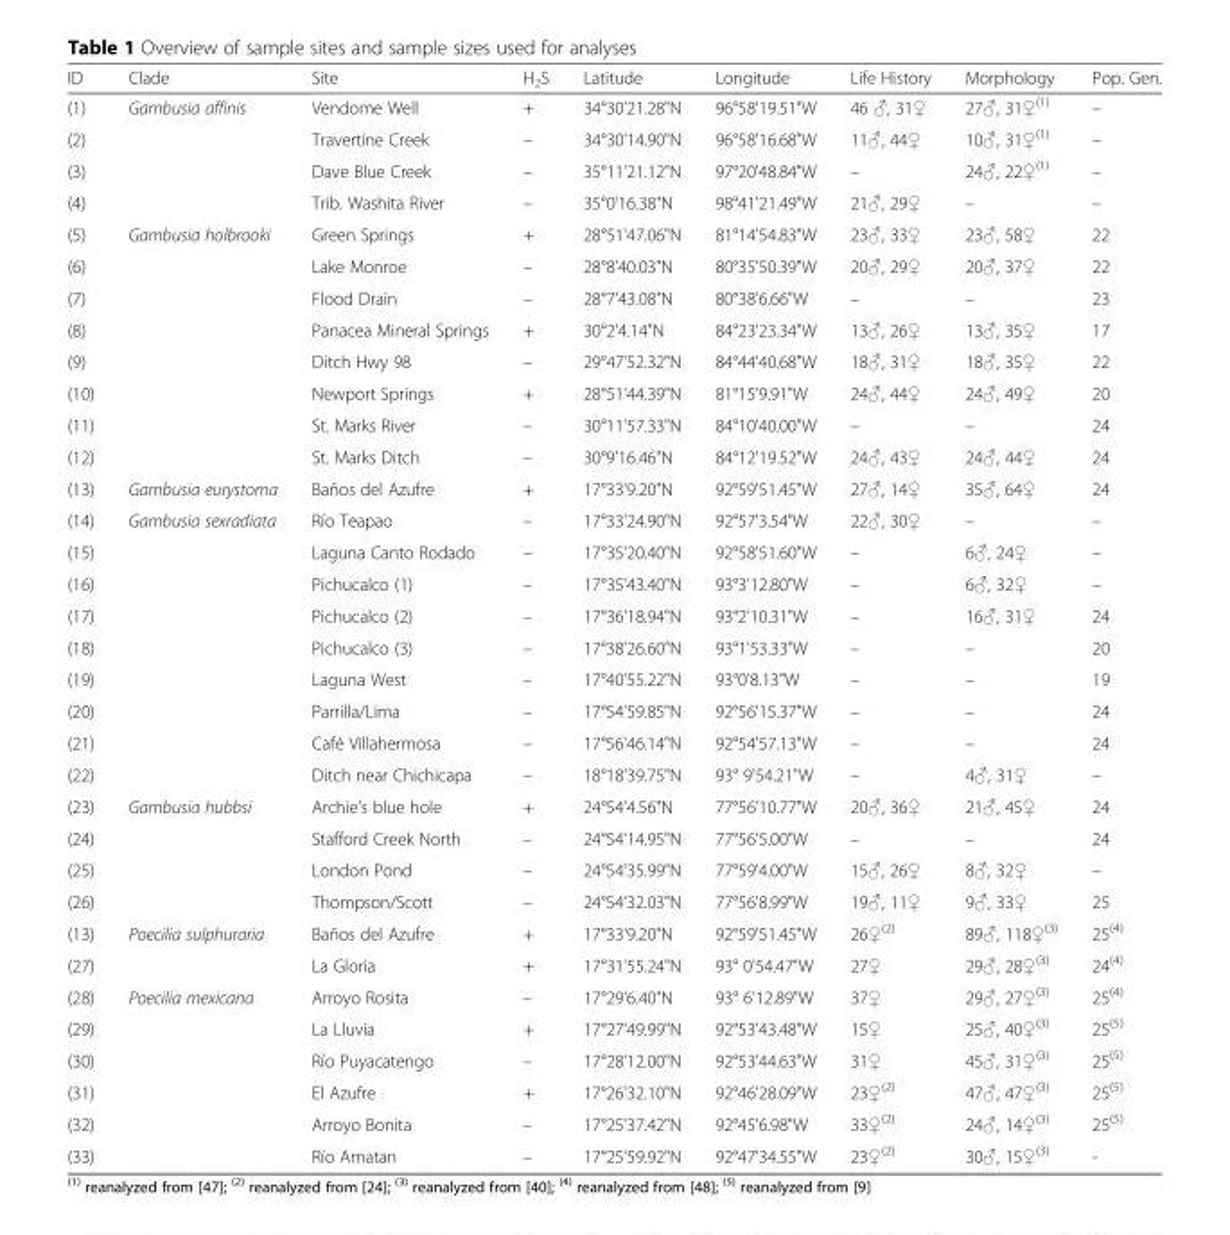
<table><thead><tr><td>ID</td><td>Clade</td><td>Site</td><td>H<sub>2</sub>S</td><td>Latitude</td><td>Longitude</td><td>Life History</td><td>Morphology</td><td>Pop. Gen.</td></tr></thead><tbody><tr><td>(1)</td><td>Gambusia affinis</td><td>Vendome Well</td><td>+</td><td>34°30&#x27;21.28&quot;N</td><td>96°58&#x27;19.51&quot;W</td><td>46 ♂, 31♀</td><td>27♂, 31♀<sup>(1)</sup></td><td>–</td></tr><tr><td>(2)</td><td></td><td>Travertine Creek</td><td>–</td><td>34°30&#x27;14.90&quot;N</td><td>96°58&#x27;16.68&quot;W</td><td>11♂, 44♀</td><td>10♂, 31♀<sup>(1)</sup></td><td>–</td></tr><tr><td>(3)</td><td></td><td>Dave Blue Creek</td><td>–</td><td>35°11&#x27;21.12&quot;N</td><td>97°20&#x27;48.84&quot;W</td><td>–</td><td>24♂, 22♀<sup>(1)</sup></td><td>–</td></tr><tr><td>(4)</td><td></td><td>Trib. Washita River</td><td>–</td><td>35°0&#x27;16.38&quot;N</td><td>98°41&#x27;21.49&quot;W</td><td>21♂, 29♀</td><td>–</td><td>–</td></tr><tr><td>(5)</td><td>Gambusia holbrooki</td><td>Green Springs</td><td>+</td><td>28°51&#x27;47.06&quot;N</td><td>81°14&#x27;54.83&quot;W</td><td>23♂, 33♀</td><td>23♂, 58♀</td><td>22</td></tr><tr><td>(6)</td><td></td><td>Lake Monroe</td><td>–</td><td>28°8&#x27;40.03&quot;N</td><td>80°35&#x27;50.39&quot;W</td><td>20♂, 29♀</td><td>20♂, 37♀</td><td>22</td></tr><tr><td>(7)</td><td></td><td>Flood Drain</td><td>–</td><td>28°7&#x27;43.08&quot;N</td><td>80°38&#x27;6.66&quot;W</td><td>–</td><td>–</td><td>23</td></tr><tr><td>(8)</td><td></td><td>Panacea Mineral Springs</td><td>+</td><td>30°2&#x27;4.14&quot;N</td><td>84°23&#x27;23.34&quot;W</td><td>13♂, 26♀</td><td>13♂, 35♀</td><td>17</td></tr><tr><td>(9)</td><td></td><td>Ditch Hwy 98</td><td>–</td><td>29°47&#x27;52.32&quot;N</td><td>84°44&#x27;40.68&quot;W</td><td>18♂, 31♀</td><td>18♂, 35♀</td><td>22</td></tr><tr><td>(10)</td><td></td><td>Newport Springs</td><td>+</td><td>28°51&#x27;44.39&quot;N</td><td>81°15&#x27;9.91&quot;W</td><td>24♂, 44♀</td><td>24♂, 49♀</td><td>20</td></tr><tr><td>(11)</td><td></td><td>St. Marks River</td><td>–</td><td>30°11&#x27;57.33&quot;N</td><td>84°10&#x27;40.00&quot;W</td><td>–</td><td>–</td><td>24</td></tr><tr><td>(12)</td><td></td><td>St. Marks Ditch</td><td>–</td><td>30°9&#x27;16.46&quot;N</td><td>84°12&#x27;19.52&quot;W</td><td>24♂, 43♀</td><td>24♂, 44♀</td><td>24</td></tr><tr><td>(13)</td><td>Gambusia eurystoma</td><td>Baños del Azufre</td><td>+</td><td>17°33&#x27;9.20&quot;N</td><td>92°59&#x27;51.45&quot;W</td><td>27♂, 14♀</td><td>35♂, 64♀</td><td>24</td></tr><tr><td>(14)</td><td>Gambusia sexradiata</td><td>Río Teapao</td><td>–</td><td>17°33&#x27;24.90&quot;N</td><td>92°57&#x27;3.54&quot;W</td><td>22♂, 30♀</td><td>–</td><td>–</td></tr><tr><td>(15)</td><td></td><td>Laguna Canto Rodado</td><td>–</td><td>17°35&#x27;20.40&quot;N</td><td>92°58&#x27;51.60&quot;W</td><td>–</td><td>6♂, 24♀</td><td>–</td></tr><tr><td>(16)</td><td></td><td>Pichucalco (1)</td><td>–</td><td>17°35&#x27;43.40&quot;N</td><td>93°3&#x27;12.80&quot;W</td><td>–</td><td>6♂, 32♀</td><td>–</td></tr><tr><td>(17)</td><td></td><td>Pichucalco (2)</td><td>–</td><td>17°36&#x27;18.94&quot;N</td><td>93°2&#x27;10.31&quot;W</td><td>–</td><td>16♂, 31♀</td><td>24</td></tr><tr><td>(18)</td><td></td><td>Pichucalco (3)</td><td>–</td><td>17°38&#x27;26.60&quot;N</td><td>93°1&#x27;53.33&quot;W</td><td>–</td><td>–</td><td>20</td></tr><tr><td>(19)</td><td></td><td>Laguna West</td><td>–</td><td>17°40&#x27;55.22&quot;N</td><td>93°0&#x27;8.13&quot;W</td><td>–</td><td>–</td><td>19</td></tr><tr><td>(20)</td><td></td><td>Parrilla/Lima</td><td>–</td><td>17°54&#x27;59.85&quot;N</td><td>92°56&#x27;15.37&quot;W</td><td>–</td><td>–</td><td>24</td></tr><tr><td>(21)</td><td></td><td>Café Villahermosa</td><td>–</td><td>17°56&#x27;46.14&quot;N</td><td>92°54&#x27;57.13&quot;W</td><td>–</td><td>–</td><td>24</td></tr><tr><td>(22)</td><td></td><td>Ditch near Chichicapa</td><td>–</td><td>18°18&#x27;39.75&quot;N</td><td>93° 9&#x27;54.21&quot;W</td><td>–</td><td>4♂, 31♀</td><td>–</td></tr><tr><td>(23)</td><td>Gambusia hubbsi</td><td>Archie’s blue hole</td><td>+</td><td>24°54&#x27;4.56&quot;N</td><td>77°56&#x27;10.77&quot;W</td><td>20♂, 36♀</td><td>21♂, 45♀</td><td>24</td></tr><tr><td>(24)</td><td></td><td>Stafford Creek North</td><td>–</td><td>24°54&#x27;14.95&quot;N</td><td>77°56&#x27;5.00&quot;W</td><td>–</td><td>–</td><td>24</td></tr><tr><td>(25)</td><td></td><td>London Pond</td><td>–</td><td>24°54&#x27;35.99&quot;N</td><td>77°59&#x27;4.00&quot;W</td><td>15♂, 26♀</td><td>8♂, 32♀</td><td>–</td></tr><tr><td>(26)</td><td></td><td>Thompson/Scott</td><td>–</td><td>24°54&#x27;32.03&quot;N</td><td>77°56&#x27;8.99&quot;W</td><td>19♂, 11♀</td><td>9♂, 33♀</td><td>25</td></tr><tr><td>(13)</td><td>Poecilia sulphuraria</td><td>Baños del Azufre</td><td>+</td><td>17°33&#x27;9.20&quot;N</td><td>92°59&#x27;51.45&quot;W</td><td>26♀<sup>(2)</sup></td><td>89♂, 118♀<sup>(3)</sup></td><td>25<sup>(4)</sup></td></tr><tr><td>(27)</td><td></td><td>La Gloria</td><td>+</td><td>17°31&#x27;55.24&quot;N</td><td>93° 0&#x27;54.47&quot;W</td><td>27♀</td><td>29♂, 28♀<sup>(3)</sup></td><td>24<sup>(4)</sup></td></tr><tr><td>(28)</td><td>Poecilia mexicana</td><td>Arroyo Rosita</td><td>–</td><td>17°29&#x27;6.40&quot;N</td><td>93° 6&#x27;12.89&quot;W</td><td>37♀</td><td>29♂, 27♀<sup>(3)</sup></td><td>25<sup>(4)</sup></td></tr><tr><td>(29)</td><td></td><td>La Lluvia</td><td>+</td><td>17°27&#x27;49.99&quot;N</td><td>92°53&#x27;43.48&quot;W</td><td>15♀</td><td>25♂, 40♀<sup>(3)</sup></td><td>25<sup>(5)</sup></td></tr><tr><td>(30)</td><td></td><td>Río Puyacatengo</td><td>–</td><td>17°28&#x27;12.00&quot;N</td><td>92°53&#x27;44.63&quot;W</td><td>31♀</td><td>45♂, 31♀<sup>(3)</sup></td><td>25<sup>(5)</sup></td></tr><tr><td>(31)</td><td></td><td>El Azufre</td><td>+</td><td>17°26&#x27;32.10&quot;N</td><td>92°46&#x27;28.09&quot;W</td><td>23♀<sup>(2)</sup></td><td>47♂, 47♀<sup>(3)</sup></td><td>25<sup>(5)</sup></td></tr><tr><td>(32)</td><td></td><td>Arroyo Bonita</td><td>–</td><td>17°25&#x27;37.42&quot;N</td><td>92°45&#x27;6.98&quot;W</td><td>33♀<sup>(2)</sup></td><td>24♂, 14♀<sup>(3)</sup></td><td>25<sup>(5)</sup></td></tr><tr><td>(33)</td><td></td><td>Río Amatan</td><td>–</td><td>17°25&#x27;59.92&quot;N</td><td>92°47&#x27;34.55&quot;W</td><td>23♀<sup>(2)</sup></td><td>30♂, 15♀<sup>(3)</sup></td><td>-</td></tr></tbody></table>